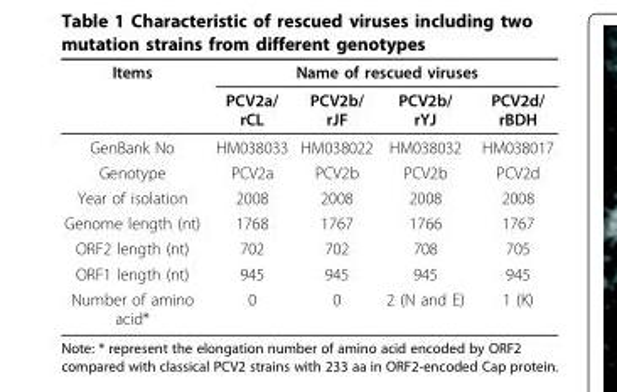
<table><thead><tr><td rowspan="2">Items</td><td colspan="4">Name of rescued viruses</td></tr><tr><td>PCV2a/ rCL</td><td>PCV2b/ rJF</td><td>PCV2b/ rYJ</td><td>PCV2d/ rBDH</td></tr></thead><tbody><tr><td>GenBank No</td><td>HM038033</td><td>HM038022</td><td>HM038032</td><td>HM038017</td></tr><tr><td>Genotype</td><td>PCV2a</td><td>PCV2b</td><td>PCV2b</td><td>PCV2d</td></tr><tr><td>Year of isolation</td><td>2008</td><td>2008</td><td>2008</td><td>2008</td></tr><tr><td>Genome length (nt)</td><td>1768</td><td>1767</td><td>1766</td><td>1767</td></tr><tr><td>ORF2 length (nt)</td><td>702</td><td>702</td><td>708</td><td>705</td></tr><tr><td>ORF1 length (nt)</td><td>945</td><td>945</td><td>945</td><td>945</td></tr><tr><td>Number of amino acid*</td><td>0</td><td>0</td><td>2 (N and E)</td><td>1 (K)</td></tr></tbody></table>